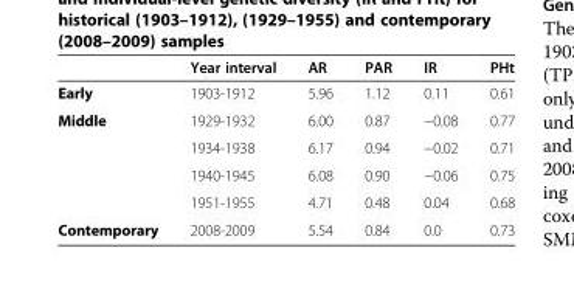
<table><thead><tr><td></td><td>Year interval</td><td>AR</td><td>PAR</td><td>IR</td><td>PHt</td></tr></thead><tbody><tr><td>Early</td><td>1903-1912</td><td>5.96</td><td>1.12</td><td>0.11</td><td>0.61</td></tr><tr><td rowspan="4">Middle</td><td>1929-1932</td><td>6.00</td><td>0.87</td><td>−0.08</td><td>0.77</td></tr><tr><td>1934-1938</td><td>6.17</td><td>0.94</td><td>−0.02</td><td>0.71</td></tr><tr><td>1940-1945</td><td>6.08</td><td>0.90</td><td>−0.06</td><td>0.75</td></tr><tr><td>1951-1955</td><td>4.71</td><td>0.48</td><td>0.04</td><td>0.68</td></tr><tr><td>Contemporary</td><td>2008-2009</td><td>5.54</td><td>0.84</td><td>0.0</td><td>0.73</td></tr></tbody></table>